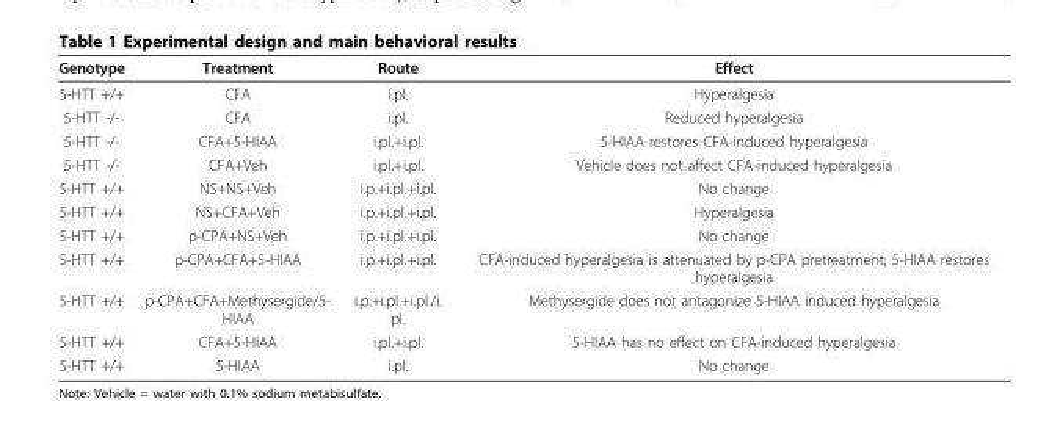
<table><thead><tr><td>Genotype</td><td>Treatment</td><td>Route</td><td>Effect</td></tr></thead><tbody><tr><td>5-HTT +/+</td><td>CFA</td><td>i.pl.</td><td>Hyperalgesia</td></tr><tr><td>5-HTT -/-</td><td>CFA</td><td>i.pl.</td><td>Reduced hyperalgesia</td></tr><tr><td>5-HTT -/-</td><td>CFA+5-HIAA</td><td>i.pl.+i.pl.</td><td>5-HIAA restores CFA-induced hyperalgesia</td></tr><tr><td>5-HTT -/-</td><td>CFA+Veh</td><td>i.pl.+i.pl.</td><td>Vehicle does not affect CFA-induced hyperalgesia</td></tr><tr><td>5-HTT +/+</td><td>NS+NS+Veh</td><td>i.p.+i.pl.+i.pl.</td><td>No change</td></tr><tr><td>5-HTT +/+</td><td>NS+CFA+Veh</td><td>i.p.+i.pl.+i.pl.</td><td>Hyperalgesia</td></tr><tr><td>5-HTT +/+</td><td>p-CPA+NS+Veh</td><td>i.p.+i.pl.+i.pl.</td><td>No change</td></tr><tr><td>5-HTT +/+</td><td>p-CPA+CFA+5-HIAA</td><td>i.p.+i.pl.+i.pl.</td><td>CFA-induced hyperalgesia is attenuated by p-CPA pretreatment; 5-HIAA restores hyperalgesia</td></tr><tr><td>5-HTT +/+</td><td>p-CPA+CFA+Methysergide/5- HIAA</td><td>i.p.+i.pl.+i.pl./i. pl.</td><td>Methysergide does not antagonize 5-HIAA induced hyperalgesia</td></tr><tr><td>5-HTT +/+</td><td>CFA+5-HIAA</td><td>i.pl.+i.pl.</td><td>5-HIAA has no effect on CFA-induced hyperalgesia</td></tr><tr><td>5-HTT +/+</td><td>5-HIAA</td><td>i.pl.</td><td>No change</td></tr></tbody></table>